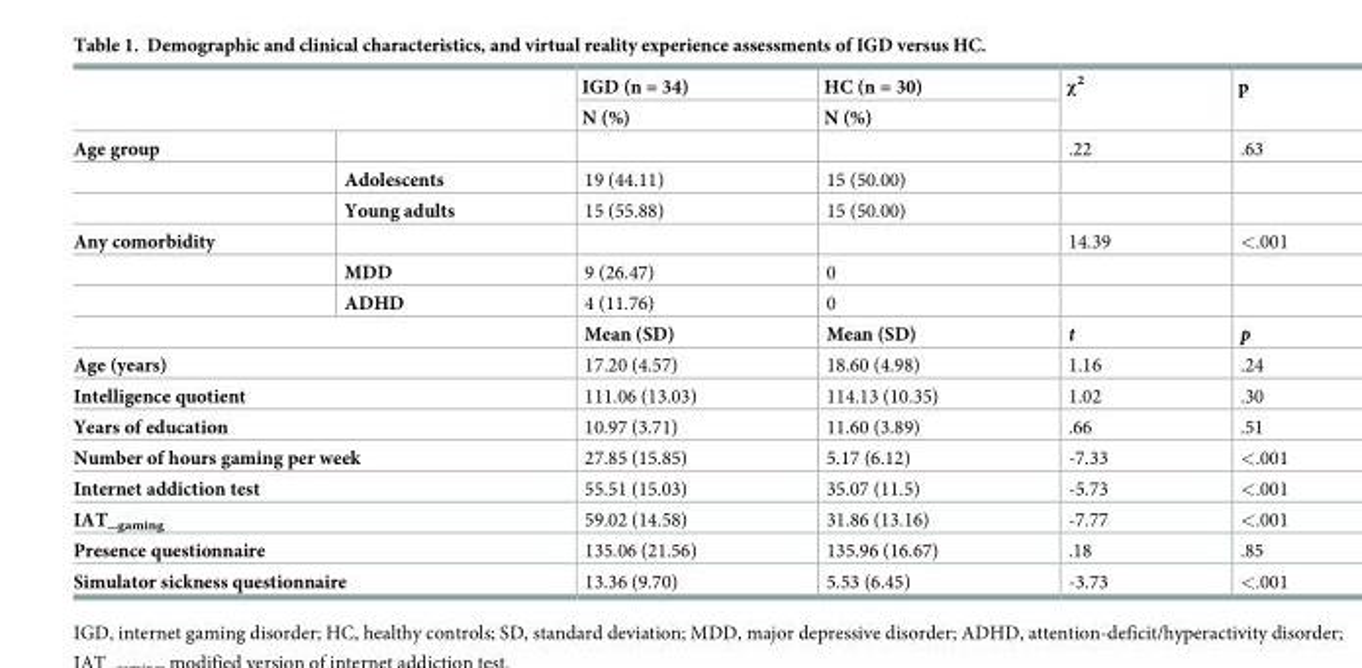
<table><thead><tr><td rowspan="2"></td><td rowspan="2"></td><td rowspan="2">IGD (n = 34) N (%)</td><td rowspan="2">HC (n = 30) N (%)</td><td rowspan="2">χ<sup>2</sup></td><td rowspan="2">p</td></tr><tr></tr></thead><tbody><tr><td rowspan="3">Age group</td><td></td><td></td><td></td><td>.22</td><td>.63</td></tr><tr><td>Adolescents</td><td>19 (44.11)</td><td>15 (50.00)</td><td></td><td></td></tr><tr><td>Young adults</td><td>15 (55.88)</td><td>15 (50.00)</td><td></td><td></td></tr><tr><td rowspan="3">Any comorbidity</td><td></td><td></td><td></td><td>14.39</td><td>&lt;.001</td></tr><tr><td>MDD</td><td>9 (26.47)</td><td>0</td><td></td><td></td></tr><tr><td>ADHD</td><td>4 (11.76)</td><td>0</td><td></td><td></td></tr><tr><td colspan="2"></td><td>Mean (SD)</td><td>Mean (SD)</td><td>t</td><td>p</td></tr><tr><td colspan="2">Age (years)</td><td>17.20 (4.57)</td><td>18.60 (4.98)</td><td>1.16</td><td>.24</td></tr><tr><td colspan="2">Intelligence quotient</td><td>111.06 (13.03)</td><td>114.13 (10.35)</td><td>1.02</td><td>.30</td></tr><tr><td colspan="2">Years of education</td><td>10.97 (3.71)</td><td>11.60 (3.89)</td><td>.66</td><td>.51</td></tr><tr><td colspan="2">Number of hours gaming per week</td><td>27.85 (15.85)</td><td>5.17 (6.12)</td><td>-7.33</td><td>&lt;.001</td></tr><tr><td colspan="2">Internet addiction test</td><td>55.51 (15.03)</td><td>35.07 (11.5)</td><td>-5.73</td><td>&lt;.001</td></tr><tr><td colspan="2">IAT_gaming</td><td>59.02 (14.58)</td><td>31.86 (13.16)</td><td>-7.77</td><td>&lt;.001</td></tr><tr><td colspan="2">Presence questionnaire</td><td>135.06 (21.56)</td><td>135.96 (16.67)</td><td>.18</td><td>.85</td></tr><tr><td colspan="2">Simulator sickness questionnaire</td><td>13.36 (9.70)</td><td>5.53 (6.45)</td><td>-3.73</td><td>&lt;.001</td></tr></tbody></table>